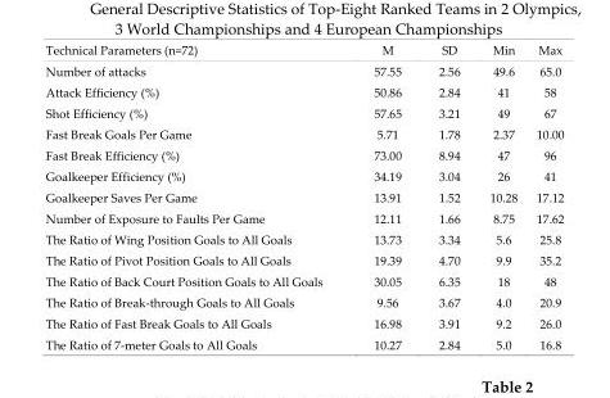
<table><thead><tr><td>Technical Parameters (n=72)</td><td>M</td><td>SD</td><td>Min</td><td>Max</td></tr></thead><tbody><tr><td>Number of attacks</td><td>57.55</td><td>2.56</td><td>49.6</td><td>65.0</td></tr><tr><td>Attack Efficiency (%)</td><td>50.86</td><td>2.84</td><td>41</td><td>58</td></tr><tr><td>Shot Efficiency (%)</td><td>57.65</td><td>3.21</td><td>49</td><td>67</td></tr><tr><td>Fast Break Goals Per Game</td><td>5.71</td><td>1.78</td><td>2.37</td><td>10.00</td></tr><tr><td>Fast Break Efficiency (%)</td><td>73.00</td><td>8.94</td><td>47</td><td>96</td></tr><tr><td>Goalkeeper Efficiency (%)</td><td>34.19</td><td>3.04</td><td>26</td><td>41</td></tr><tr><td>Goalkeeper Saves Per Game</td><td>13.91</td><td>1.52</td><td>10.28</td><td>17.12</td></tr><tr><td>Number of Exposure to Faults Per Game</td><td>12.11</td><td>1.66</td><td>8.75</td><td>17.62</td></tr><tr><td>The Ratio of Wing Position Goals to All Goals</td><td>13.73</td><td>3.34</td><td>5.6</td><td>25.8</td></tr><tr><td>The Ratio of Pivot Position Goals to All Goals</td><td>19.39</td><td>4.70</td><td>9.9</td><td>35.2</td></tr><tr><td>The Ratio of Back Court Position Goals to All Goals</td><td>30.05</td><td>6.35</td><td>18</td><td>48</td></tr><tr><td>The Ratio of Break-through Goals to All Goals</td><td>9.56</td><td>3.67</td><td>4.0</td><td>20.9</td></tr><tr><td>The Ratio of Fast Break Goals to All Goals</td><td>16.98</td><td>3.91</td><td>9.2</td><td>26.0</td></tr><tr><td>The Ratio of 7-meter Goals to All Goals</td><td>10.27</td><td>2.84</td><td>5.0</td><td>16.8</td></tr></tbody></table>